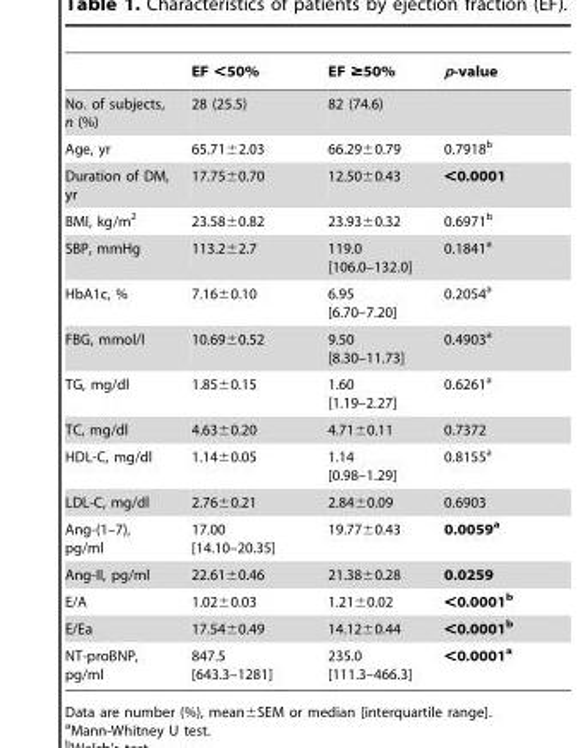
<table><thead><tr><td></td><td>EF &lt;50%</td><td>EF ≥50%</td><td>p-value</td></tr></thead><tbody><tr><td>No. of subjects, n (%)</td><td>28 (25.5)</td><td>82 (74.6)</td><td></td></tr><tr><td>Age, yr</td><td>65.71±2.03</td><td>66.29±0.79</td><td>0.7918<sup>b</sup></td></tr><tr><td>Duration of DM, yr</td><td>17.75±0.70</td><td>12.50±0.43</td><td>&lt;0.0001</td></tr><tr><td>BMI, kg/m<sup>2</sup></td><td>23.58±0.82</td><td>23.93±0.32</td><td>0.6971<sup>b</sup></td></tr><tr><td>SBP, mmHg</td><td>113.2±2.7</td><td>119.0 [106.0–132.0]</td><td>0.1841<sup>a</sup></td></tr><tr><td>HbA1c, %</td><td>7.16±0.10</td><td>6.95 [6.70–7.20]</td><td>0.2054<sup>a</sup></td></tr><tr><td>FBG, mmol/l</td><td>10.69±0.52</td><td>9.50 [8.30–11.73]</td><td>0.4903<sup>a</sup></td></tr><tr><td>TG, mg/dl</td><td>1.85±0.15</td><td>1.60 [1.19–2.27]</td><td>0.6261<sup>a</sup></td></tr><tr><td>TC, mg/dl</td><td>4.63±0.20</td><td>4.71±0.11</td><td>0.7372</td></tr><tr><td>HDL-C, mg/dl</td><td>1.14±0.05</td><td>1.14 [0.98–1.29]</td><td>0.8155<sup>a</sup></td></tr><tr><td>LDL-C, mg/dl</td><td>2.76±0.21</td><td>2.84±0.09</td><td>0.6903</td></tr><tr><td>Ang-(1–7), pg/ml</td><td>17.00 [14.10–20.35]</td><td>19.77±0.43</td><td>0.0059a</td></tr><tr><td>Ang-II, pg/ml</td><td>22.61±0.46</td><td>21.38±0.28</td><td>0.0259</td></tr><tr><td>E/A</td><td>1.02±0.03</td><td>1.21±0.02</td><td>&lt;0.0001b</td></tr><tr><td>E/Ea</td><td>17.54±0.49</td><td>14.12±0.44</td><td>&lt;0.0001b</td></tr><tr><td>NT-proBNP, pg/ml</td><td>847.5 [643.3–1281]</td><td>235.0 [111.3–466.3]</td><td>&lt;0.0001a</td></tr></tbody></table>